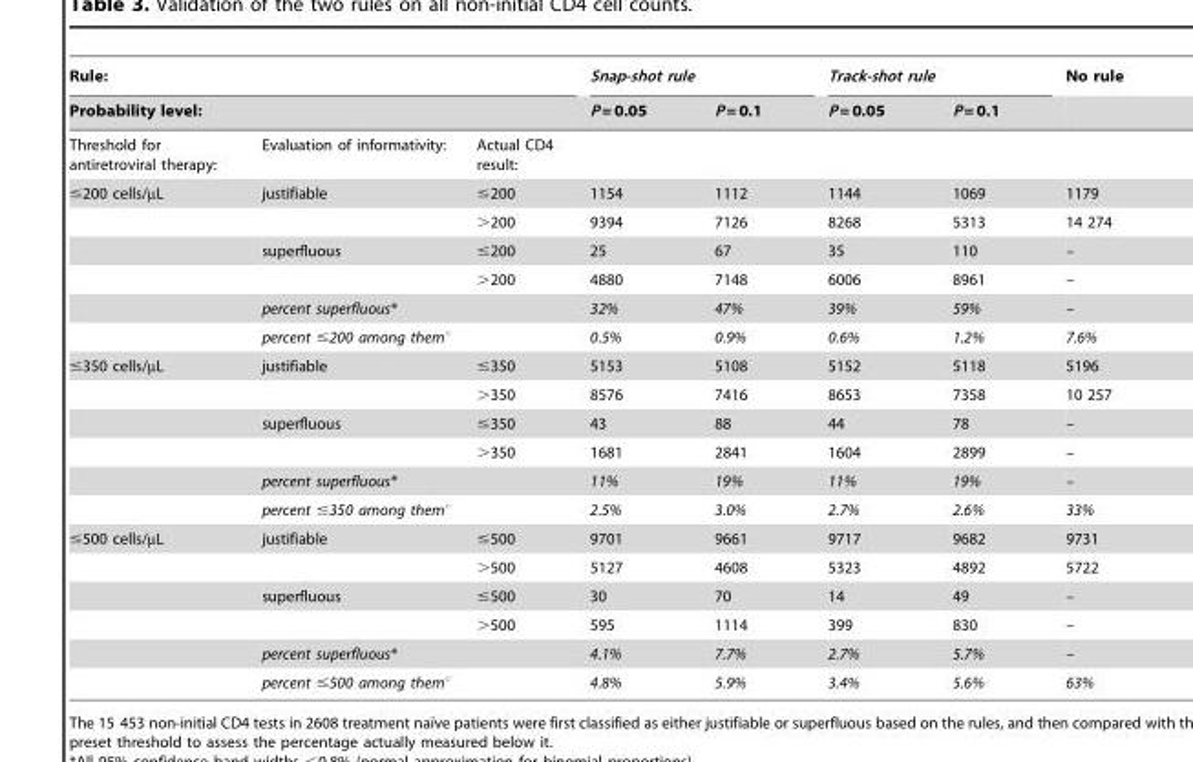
<table><thead><tr><td rowspan="2" colspan="3">Rule: Probability level:</td><td colspan="2">Snap-shot rule</td><td colspan="2">Track-shot rule</td><td rowspan="3">No rule</td></tr><tr><td rowspan="2">P = 0.05</td><td rowspan="2">P = 0.1</td><td rowspan="2">P = 0.05</td><td rowspan="2">P = 0.1</td></tr><tr><td>Threshold for antiretroviral therapy:</td><td>Evaluation of informativity:</td><td>Actual CD4 result:</td></tr></thead><tbody><tr><td rowspan="6">≤200 cells/µL</td><td>justifiable</td><td>≤200</td><td>1154</td><td>1112</td><td>1144</td><td>1069</td><td>1179</td></tr><tr><td></td><td>&gt;200</td><td>9394</td><td>7126</td><td>8268</td><td>5313</td><td>14 274</td></tr><tr><td>superfluous</td><td>≤200</td><td>25</td><td>67</td><td>35</td><td>110</td><td>–</td></tr><tr><td></td><td>&gt;200</td><td>4880</td><td>7148</td><td>6006</td><td>8961</td><td>–</td></tr><tr><td colspan="2">percent superfluous*</td><td>32%</td><td>47%</td><td>39%</td><td>59%</td><td>–</td></tr><tr><td colspan="2">percent ≤200 among them°</td><td>0.5%</td><td>0.9%</td><td>0.6%</td><td>1.2%</td><td>7.6%</td></tr><tr><td rowspan="6">≤350 cells/µL</td><td>justifiable</td><td>≤350</td><td>5153</td><td>5108</td><td>5152</td><td>5118</td><td>5196</td></tr><tr><td></td><td>&gt;350</td><td>8576</td><td>7416</td><td>8653</td><td>7358</td><td>10 257</td></tr><tr><td>superfluous</td><td>≤350</td><td>43</td><td>88</td><td>44</td><td>78</td><td>–</td></tr><tr><td></td><td>&gt;350</td><td>1681</td><td>2841</td><td>1604</td><td>2899</td><td>–</td></tr><tr><td colspan="2">percent superfluous*</td><td>11%</td><td>19%</td><td>11%</td><td>19%</td><td>–</td></tr><tr><td colspan="2">percent ≤350 among them°</td><td>2.5%</td><td>3.0%</td><td>2.7%</td><td>2.6%</td><td>33%</td></tr><tr><td rowspan="6">≤500 cells/µL</td><td>justifiable</td><td>≤500</td><td>9701</td><td>9661</td><td>9717</td><td>9682</td><td>9731</td></tr><tr><td></td><td>&gt;500</td><td>5127</td><td>4608</td><td>5323</td><td>4892</td><td>5722</td></tr><tr><td>superfluous</td><td>≤500</td><td>30</td><td>70</td><td>14</td><td>49</td><td>–</td></tr><tr><td></td><td>&gt;500</td><td>595</td><td>1114</td><td>399</td><td>830</td><td>–</td></tr><tr><td colspan="2">percent superfluous*</td><td>4.1%</td><td>7.7%</td><td>2.7%</td><td>5.7%</td><td>–</td></tr><tr><td colspan="2">percent ≤500 among them°</td><td>4.8%</td><td>5.9%</td><td>3.4%</td><td>5.6%</td><td>63%</td></tr></tbody></table>